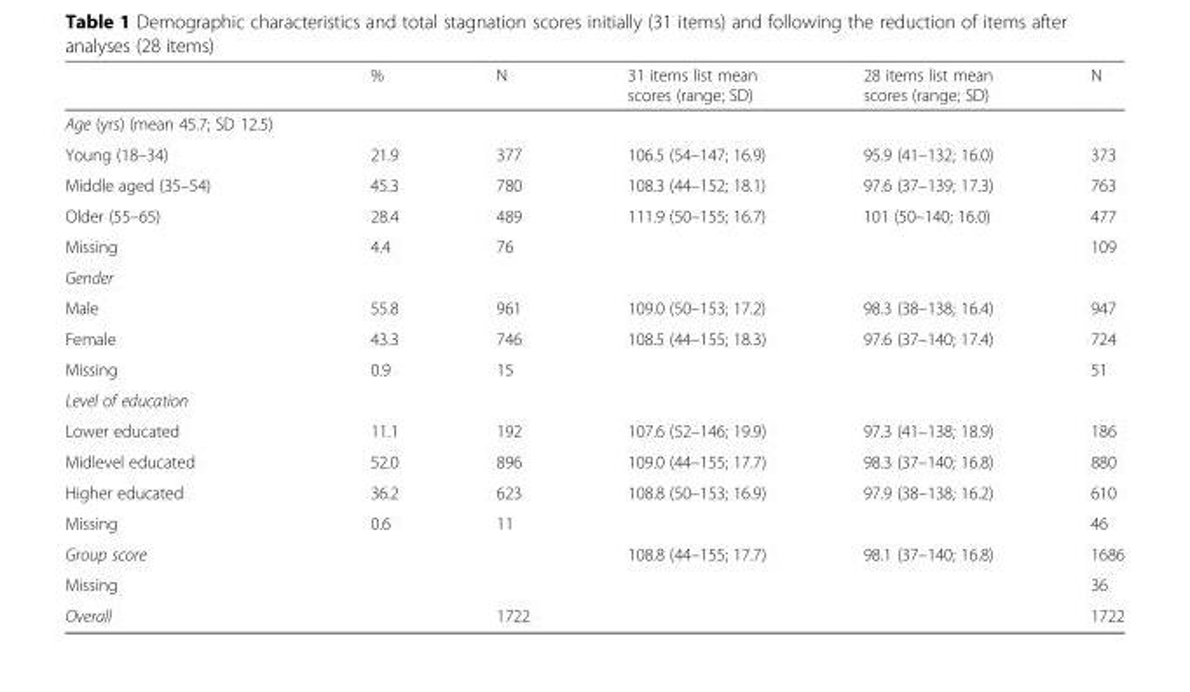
<table><thead><tr><td></td><td>%</td><td>N</td><td>31 items list mean scores (range; SD)</td><td>28 items list mean scores (range; SD)</td><td>N</td></tr></thead><tbody><tr><td colspan="6">Age (yrs) (mean 45.7; SD 12.5)</td></tr><tr><td>Young (18–34)</td><td>21.9</td><td>377</td><td>106.5 (54–147; 16.9)</td><td>95.9 (41–132; 16.0)</td><td>373</td></tr><tr><td>Middle aged (35–54)</td><td>45.3</td><td>780</td><td>108.3 (44–152; 18.1)</td><td>97.6 (37–139; 17.3)</td><td>763</td></tr><tr><td>Older (55–65)</td><td>28.4</td><td>489</td><td>111.9 (50–155; 16.7)</td><td>101 (50–140; 16.0)</td><td>477</td></tr><tr><td>Missing</td><td>4.4</td><td>76</td><td></td><td></td><td>109</td></tr><tr><td colspan="6">Gender</td></tr><tr><td>Male</td><td>55.8</td><td>961</td><td>109.0 (50–153; 17.2)</td><td>98.3 (38–138; 16.4)</td><td>947</td></tr><tr><td>Female</td><td>43.3</td><td>746</td><td>108.5 (44–155; 18.3)</td><td>97.6 (37–140; 17.4)</td><td>724</td></tr><tr><td>Missing</td><td>0.9</td><td>15</td><td></td><td></td><td>51</td></tr><tr><td colspan="6">Level of education</td></tr><tr><td>Lower educated</td><td>11.1</td><td>192</td><td>107.6 (52–146; 19.9)</td><td>97.3 (41–138; 18.9)</td><td>186</td></tr><tr><td>Midlevel educated</td><td>52.0</td><td>896</td><td>109.0 (44–155; 17.7)</td><td>98.3 (37–140; 16.8)</td><td>880</td></tr><tr><td>Higher educated</td><td>36.2</td><td>623</td><td>108.8 (50–153; 16.9)</td><td>97.9 (38–138; 16.2)</td><td>610</td></tr><tr><td>Missing</td><td>0.6</td><td>11</td><td></td><td></td><td>46</td></tr><tr><td>Group score</td><td></td><td></td><td>108.8 (44–155; 17.7)</td><td>98.1 (37–140; 16.8)</td><td>1686</td></tr><tr><td>Missing</td><td></td><td></td><td></td><td></td><td>36</td></tr><tr><td>Overall</td><td></td><td>1722</td><td></td><td></td><td>1722</td></tr></tbody></table>